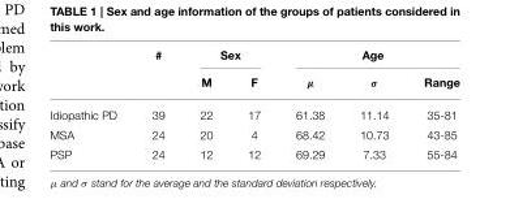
<table><thead><tr><td rowspan="2"></td><td rowspan="2">#</td><td colspan="2">Sex</td><td colspan="3">Age</td></tr><tr><td>M</td><td>F</td><td>µ</td><td>σ</td><td>Range</td></tr></thead><tbody><tr><td>Idiopathic PD</td><td>39</td><td>22</td><td>17</td><td>61.38</td><td>11.14</td><td>35-81</td></tr><tr><td>MSA</td><td>24</td><td>20</td><td>4</td><td>68.42</td><td>10.73</td><td>43-85</td></tr><tr><td>PSP</td><td>24</td><td>12</td><td>12</td><td>69.29</td><td>7.33</td><td>55-84</td></tr></tbody></table>